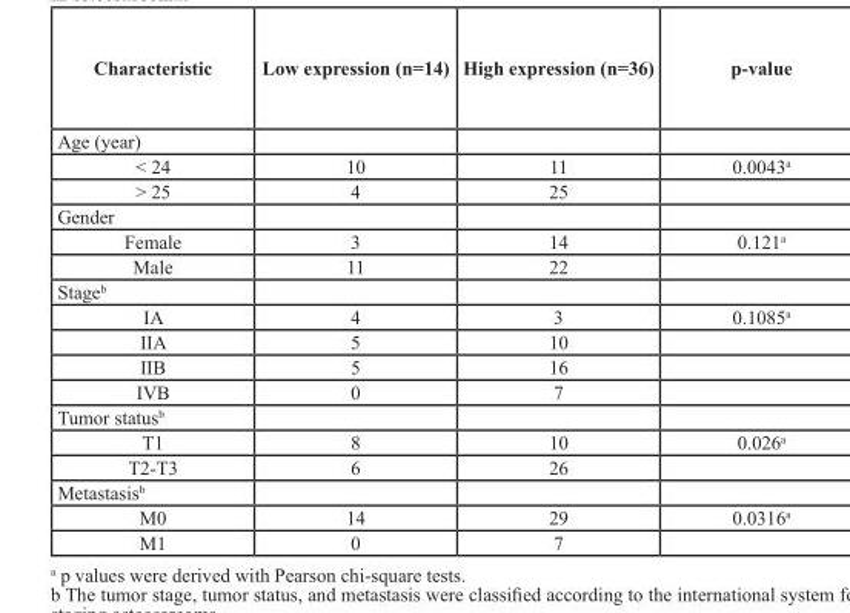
<table><thead><tr><td>Characteristic</td><td>Low expression (n=14)</td><td>High expression (n=36)</td><td>p-value</td></tr></thead><tbody><tr><td colspan="4">Age (year)</td></tr><tr><td>&lt; 24</td><td>10</td><td>11</td><td>0.0043<sup>a</sup></td></tr><tr><td>&gt; 25</td><td>4</td><td>25</td><td></td></tr><tr><td colspan="4">Gender</td></tr><tr><td>Female</td><td>3</td><td>14</td><td>0.121<sup>a</sup></td></tr><tr><td>Male</td><td>11</td><td>22</td><td></td></tr><tr><td colspan="4">Stage<sup>b</sup></td></tr><tr><td>IA</td><td>4</td><td>3</td><td>0.1085<sup>a</sup></td></tr><tr><td>IIA</td><td>5</td><td>10</td><td></td></tr><tr><td>IIB</td><td>5</td><td>16</td><td></td></tr><tr><td>IVB</td><td>0</td><td>7</td><td></td></tr><tr><td colspan="4">Tumor status<sup>b</sup></td></tr><tr><td>T1</td><td>8</td><td>10</td><td>0.026<sup>a</sup></td></tr><tr><td>T2-T3</td><td>6</td><td>26</td><td></td></tr><tr><td colspan="4">Metastasis<sup>b</sup></td></tr><tr><td>M0</td><td>14</td><td>29</td><td>0.0316<sup>a</sup></td></tr><tr><td>M1</td><td>0</td><td>7</td><td></td></tr></tbody></table>